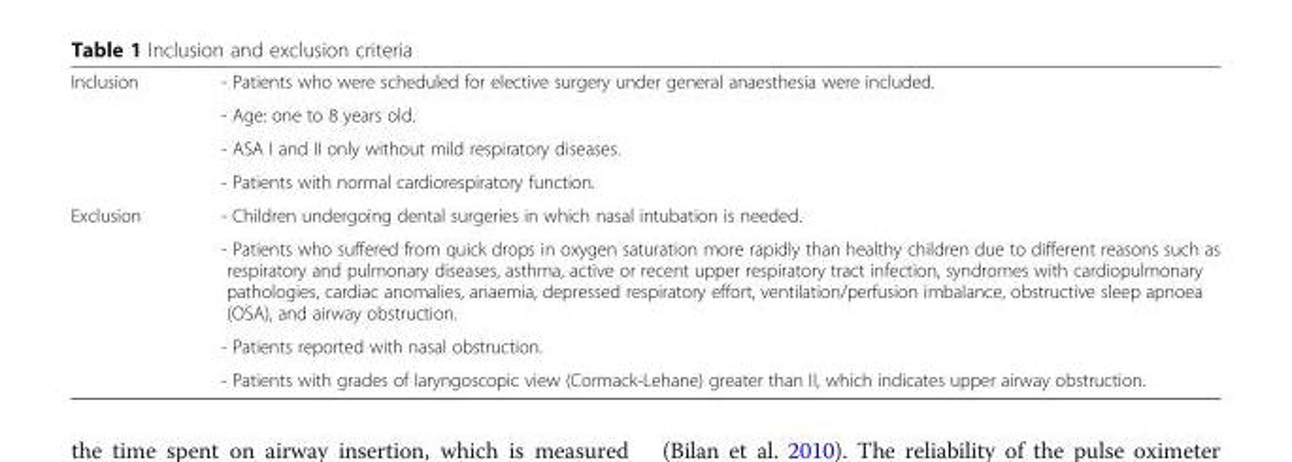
<table><tbody><tr><td rowspan="4">Inclusion</td><td>- Patients who were scheduled for elective surgery under general anaesthesia were included.</td></tr><tr><td>- Age: one to 8 years old.</td></tr><tr><td>- ASA I and II only without mild respiratory diseases.</td></tr><tr><td>- Patients with normal cardiorespiratory function.</td></tr><tr><td rowspan="4">Exclusion</td><td>- Children undergoing dental surgeries in which nasal intubation is needed.</td></tr><tr><td>- Patients who suffered from quick drops in oxygen saturation more rapidly than healthy children due to different reasons such as respiratory and pulmonary diseases, asthma, active or recent upper respiratory tract infection, syndromes with cardiopulmonary pathologies, cardiac anomalies, anaemia, depressed respiratory effort, ventilation/perfusion imbalance, obstructive sleep apnoea (OSA), and airway obstruction.</td></tr><tr><td>- Patients reported with nasal obstruction.</td></tr><tr><td>- Patients with grades of laryngoscopic view (Cormack-Lehane) greater than II, which indicates upper airway obstruction.</td></tr></tbody></table>